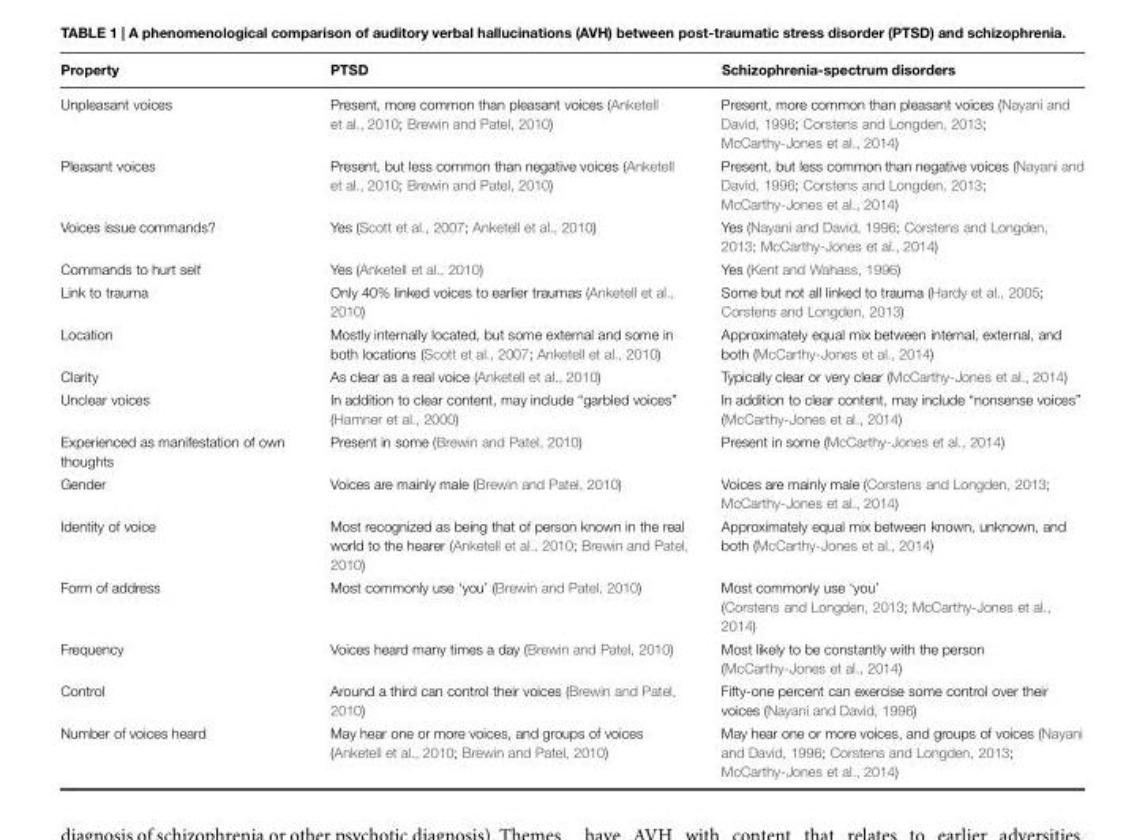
<table><thead><tr><td>Property</td><td>PTSD</td><td>Schizophrenia-spectrum disorders</td></tr></thead><tbody><tr><td>Unpleasant voices</td><td>Present, more common than pleasant voices (Anketell et al., 2010; Brewin and Patel, 2010)</td><td>Present, more common than pleasant voices (Nayani and David, 1996; Corstens and Longden, 2013; McCarthy-Jones et al., 2014)</td></tr><tr><td>Pleasant voices</td><td>Present, but less common than negative voices (Anketell et al., 2010; Brewin and Patel, 2010)</td><td>Present, but less common than negative voices (Nayani and David, 1996; Corstens and Longden, 2013; McCarthy-Jones et al., 2014)</td></tr><tr><td>Voices issue commands?</td><td>Yes (Scott et al., 2007; Anketell et al., 2010)</td><td>Yes (Nayani and David, 1996; Corstens and Longden, 2013; McCarthy-Jones et al., 2014)</td></tr><tr><td>Commands to hurt self</td><td>Yes (Anketell et al., 2010)</td><td>Yes (Kent and Wahass, 1996)</td></tr><tr><td>Link to trauma</td><td>Only 40% linked voices to earlier traumas (Anketell et al., 2010)</td><td>Some but not all linked to trauma (Hardy et al., 2005; Corstens and Longden, 2013)</td></tr><tr><td>Location</td><td>Mostly internally located, but some external and some in both locations (Scott et al., 2007; Anketell et al., 2010)</td><td>Approximately equal mix between internal, external, and both (McCarthy-Jones et al., 2014)</td></tr><tr><td>Clarity</td><td>As clear as a real voice (Anketell et al., 2010)</td><td>Typically clear or very clear (McCarthy-Jones et al., 2014)</td></tr><tr><td>Unclear voices</td><td>In addition to clear content, may include “garbled voices” (Hamner et al., 2000)</td><td>In addition to clear content, may include “nonsense voices” (McCarthy-Jones et al., 2014)</td></tr><tr><td>Experienced as manifestation of own thoughts</td><td>Present in some (Brewin and Patel, 2010)</td><td>Present in some (McCarthy-Jones et al., 2014)</td></tr><tr><td>Gender</td><td>Voices are mainly male (Brewin and Patel, 2010)</td><td>Voices are mainly male (Corstens and Longden, 2013; McCarthy-Jones et al., 2014)</td></tr><tr><td>Identity of voice</td><td>Most recognized as being that of person known in the real world to the hearer (Anketell et al., 2010; Brewin and Patel, 2010)</td><td>Approximately equal mix between known, unknown, and both (McCarthy-Jones et al., 2014)</td></tr><tr><td>Form of address</td><td>Most commonly use ‘you’ (Brewin and Patel, 2010)</td><td>Most commonly use ‘you’ (Corstens and Longden, 2013; McCarthy-Jones et al., 2014)</td></tr><tr><td>Frequency</td><td>Voices heard many times a day (Brewin and Patel, 2010)</td><td>Most likely to be constantly with the person (McCarthy-Jones et al., 2014)</td></tr><tr><td>Control</td><td>Around a third can control their voices (Brewin and Patel, 2010)</td><td>Fifty-one percent can exercise some control over their voices (Nayani and David, 1996)</td></tr><tr><td>Number of voices heard</td><td>May hear one or more voices, and groups of voices (Anketell et al., 2010; Brewin and Patel, 2010)</td><td>May hear one or more voices, and groups of voices (Nayani and David, 1996; Corstens and Longden, 2013; McCarthy-Jones et al., 2014)</td></tr></tbody></table>